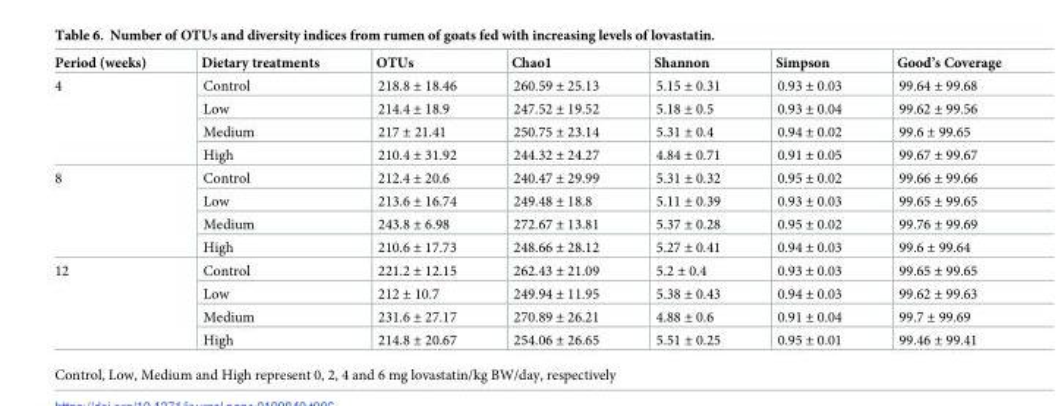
<table><thead><tr><td>Period (weeks)</td><td>Dietary treatments</td><td>OTUs</td><td>Chao1</td><td>Shannon</td><td>Simpson</td><td>Good’s Coverage</td></tr></thead><tbody><tr><td rowspan="4">4</td><td>Control</td><td>218.8 ± 18.46</td><td>260.59 ± 25.13</td><td>5.15 ± 0.31</td><td>0.93 ± 0.03</td><td>99.64 ± 99.68</td></tr><tr><td>Low</td><td>214.4 ± 18.9</td><td>247.52 ± 19.52</td><td>5.18 ± 0.5</td><td>0.93 ± 0.04</td><td>99.62 ± 99.56</td></tr><tr><td>Medium</td><td>217 ± 21.41</td><td>250.75 ± 23.14</td><td>5.31 ± 0.4</td><td>0.94 ± 0.02</td><td>99.6 ± 99.65</td></tr><tr><td>High</td><td>210.4 ± 31.92</td><td>244.32 ± 24.27</td><td>4.84 ± 0.71</td><td>0.91 ± 0.05</td><td>99.67 ± 99.67</td></tr><tr><td rowspan="4">8</td><td>Control</td><td>212.4 ± 20.6</td><td>240.47 ± 29.99</td><td>5.31 ± 0.32</td><td>0.95 ± 0.02</td><td>99.66 ± 99.66</td></tr><tr><td>Low</td><td>213.6 ± 16.74</td><td>249.48 ± 18.8</td><td>5.11 ± 0.39</td><td>0.93 ± 0.03</td><td>99.65 ± 99.65</td></tr><tr><td>Medium</td><td>243.8 ± 6.98</td><td>272.67 ± 13.81</td><td>5.37 ± 0.28</td><td>0.95 ± 0.02</td><td>99.76 ± 99.69</td></tr><tr><td>High</td><td>210.6 ± 17.73</td><td>248.66 ± 28.12</td><td>5.27 ± 0.41</td><td>0.94 ± 0.03</td><td>99.6 ± 99.64</td></tr><tr><td rowspan="4">12</td><td>Control</td><td>221.2 ± 12.15</td><td>262.43 ± 21.09</td><td>5.2 ± 0.4</td><td>0.93 ± 0.03</td><td>99.65 ± 99.65</td></tr><tr><td>Low</td><td>212 ± 10.7</td><td>249.94 ± 11.95</td><td>5.38 ± 0.43</td><td>0.94 ± 0.03</td><td>99.62 ± 99.63</td></tr><tr><td>Medium</td><td>231.6 ± 27.17</td><td>270.89 ± 26.21</td><td>4.88 ± 0.6</td><td>0.91 ± 0.04</td><td>99.7 ± 99.69</td></tr><tr><td>High</td><td>214.8 ± 20.67</td><td>254.06 ± 26.65</td><td>5.51 ± 0.25</td><td>0.95 ± 0.01</td><td>99.46 ± 99.41</td></tr></tbody></table>